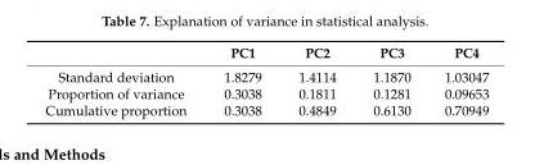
<table><thead><tr><td></td><td>PC1</td><td>PC2</td><td>PC3</td><td>PC4</td></tr></thead><tbody><tr><td>Standard deviation</td><td>1.8279</td><td>1.4114</td><td>1.1870</td><td>1.03047</td></tr><tr><td>Proportion of variance</td><td>0.3038</td><td>0.1811</td><td>0.1281</td><td>0.09653</td></tr><tr><td>Cumulative proportion</td><td>0.3038</td><td>0.4849</td><td>0.6130</td><td>0.70949</td></tr></tbody></table>